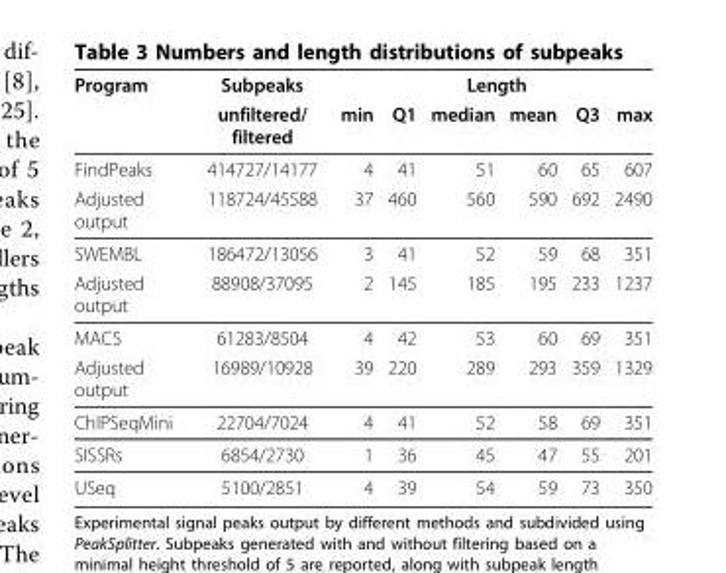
<table><thead><tr><td rowspan="2">Program</td><td rowspan="2">Subpeaks unfiltered/ filtered</td><td colspan="6">Length</td></tr><tr><td>min</td><td>Q1</td><td>median</td><td>mean</td><td>Q3</td><td>max</td></tr></thead><tbody><tr><td>FindPeaks</td><td>414727/14177</td><td>4</td><td>41</td><td>51</td><td>60</td><td>65</td><td>607</td></tr><tr><td>Adjusted output</td><td>118724/45588</td><td>37</td><td>460</td><td>560</td><td>590</td><td>692</td><td>2490</td></tr><tr><td>SWEMBL</td><td>186472/13056</td><td>3</td><td>41</td><td>52</td><td>59</td><td>68</td><td>351</td></tr><tr><td>Adjusted output</td><td>88908/37095</td><td>2</td><td>145</td><td>185</td><td>195</td><td>233</td><td>1237</td></tr><tr><td>MACS</td><td>61283/8504</td><td>4</td><td>42</td><td>53</td><td>60</td><td>69</td><td>351</td></tr><tr><td>Adjusted output</td><td>16989/10928</td><td>39</td><td>220</td><td>289</td><td>293</td><td>359</td><td>1329</td></tr><tr><td>ChIPSeqMini</td><td>22704/7024</td><td>4</td><td>41</td><td>52</td><td>58</td><td>69</td><td>351</td></tr><tr><td>SISSRs</td><td>6854/2730</td><td>1</td><td>36</td><td>45</td><td>47</td><td>55</td><td>201</td></tr><tr><td>USeq</td><td>5100/2851</td><td>4</td><td>39</td><td>54</td><td>59</td><td>73</td><td>350</td></tr></tbody></table>